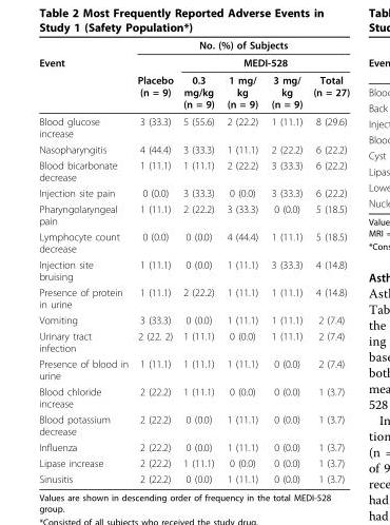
<table><thead><tr><td rowspan="3">Event</td><td colspan="5">No. (%) of Subjects</td></tr><tr><td rowspan="2">Placebo (n = 9)</td><td colspan="4">MEDI-528</td></tr><tr><td>0.3 mg/kg (n = 9)</td><td>1 mg/ kg (n = 9)</td><td>3 mg/ kg (n = 9)</td><td>Total (n = 27)</td></tr></thead><tbody><tr><td>Blood glucose increase</td><td>3 (33.3)</td><td>5 (55.6)</td><td>2 (22.2)</td><td>1 (11.1)</td><td>8 (29.6)</td></tr><tr><td>Nasopharyngitis</td><td>4 (44.4)</td><td>3 (33.3)</td><td>1 (11.1)</td><td>2 (22.2)</td><td>6 (22.2)</td></tr><tr><td>Blood bicarbonate decrease</td><td>1 (11.1)</td><td>1 (11.1)</td><td>2 (22.2)</td><td>3 (33.3)</td><td>6 (22.2)</td></tr><tr><td>Injection site pain</td><td>0 (0.0)</td><td>3 (33.3)</td><td>0 (0.0)</td><td>3 (33.3)</td><td>6 (22.2)</td></tr><tr><td>Pharyngolaryngeal pain</td><td>1 (11.1)</td><td>2 (22.2)</td><td>3 (33.3)</td><td>0 (0.0)</td><td>5 (18.5)</td></tr><tr><td>Lymphocyte count decrease</td><td>0 (0.0)</td><td>0 (0.0)</td><td>4 (44.4)</td><td>1 (11.1)</td><td>5 (18.5)</td></tr><tr><td>Injection site bruising</td><td>1 (11.1)</td><td>0 (0.0)</td><td>1 (11.1)</td><td>3 (33.3)</td><td>4 (14.8)</td></tr><tr><td>Presence of protein in urine</td><td>1 (11.1)</td><td>2 (22.2)</td><td>1 (11.1)</td><td>1 (11.1)</td><td>4 (14.8)</td></tr><tr><td>Vomiting</td><td>3 (33.3)</td><td>0 (0.0)</td><td>1 (11.1)</td><td>1 (11.1)</td><td>2 (7.4)</td></tr><tr><td>Urinary tract infection</td><td>2 (22. 2)</td><td>1 (11.1)</td><td>0 (0.0)</td><td>1 (11.1)</td><td>2 (7.4)</td></tr><tr><td>Presence of blood in urine</td><td>1 (11.1)</td><td>1 (11.1)</td><td>1 (11.1)</td><td>0 (0.0)</td><td>2 (7.4)</td></tr><tr><td>Blood chloride increase</td><td>2 (22.2)</td><td>1 (11.1)</td><td>0 (0.0)</td><td>0 (0.0)</td><td>1 (3.7)</td></tr><tr><td>Blood potassium decrease</td><td>2 (22.2)</td><td>0 (0.0)</td><td>1 (11.1)</td><td>0 (0.0)</td><td>1 (3.7)</td></tr><tr><td>Influenza</td><td>2 (22.2)</td><td>0 (0.0)</td><td>1 (11.1)</td><td>0 (0.0)</td><td>1 (3.7)</td></tr><tr><td>Lipase increase</td><td>2 (22.2)</td><td>1 (11.1)</td><td>0 (0.0)</td><td>0 (0.0)</td><td>1 (3.7)</td></tr><tr><td>Sinusitis</td><td>2 (22.2)</td><td>0 (0.0)</td><td>1 (11.1)</td><td>0 (0.0)</td><td>1 (3.7)</td></tr></tbody></table>